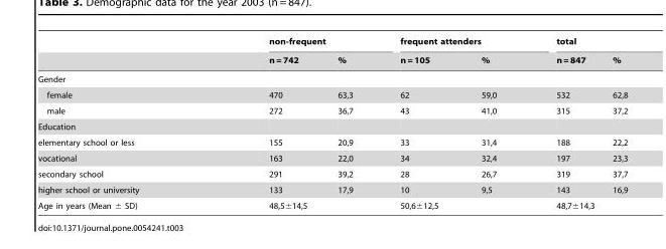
<table><thead><tr><td rowspan="2"></td><td colspan="2">non-frequent</td><td colspan="2">frequent attenders</td><td colspan="2">total</td></tr><tr><td>n = 742</td><td>%</td><td>n = 105</td><td>%</td><td>n = 847</td><td>%</td></tr></thead><tbody><tr><td colspan="7">Gender</td></tr><tr><td>female</td><td>470</td><td>63,3</td><td>62</td><td>59,0</td><td>532</td><td>62,8</td></tr><tr><td>male</td><td>272</td><td>36,7</td><td>43</td><td>41,0</td><td>315</td><td>37,2</td></tr><tr><td colspan="7">Education</td></tr><tr><td>elementary school or less</td><td>155</td><td>20,9</td><td>33</td><td>31,4</td><td>188</td><td>22,2</td></tr><tr><td>vocational</td><td>163</td><td>22,0</td><td>34</td><td>32,4</td><td>197</td><td>23,3</td></tr><tr><td>secondary school</td><td>291</td><td>39,2</td><td>28</td><td>26,7</td><td>319</td><td>37,7</td></tr><tr><td>higher school or university</td><td>133</td><td>17,9</td><td>10</td><td>9,5</td><td>143</td><td>16,9</td></tr><tr><td>Age in years (Mean ± SD)</td><td colspan="2">48,5±14,5</td><td colspan="2">50,6±12,5</td><td colspan="2">48,7±14,3</td></tr></tbody></table>